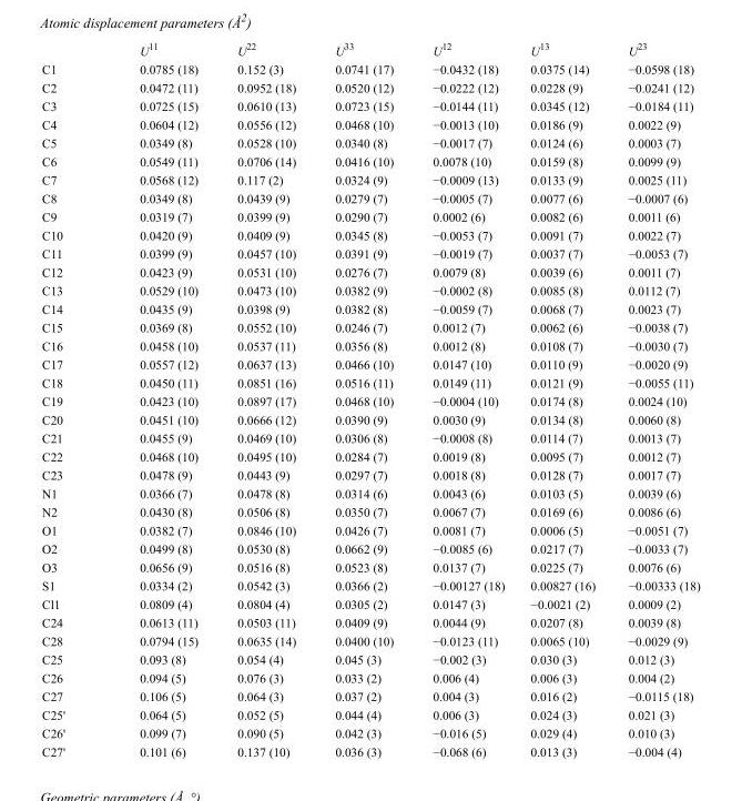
<table><thead><tr><td></td><td>U<sup>11</sup></td><td>U<sup>22</sup></td><td>U<sup>33</sup></td><td>U<sup>12</sup></td><td>U<sup>13</sup></td><td>U<sup>23</sup></td></tr></thead><tbody><tr><td>C1</td><td>0.0785 (18)</td><td>0.152 (3)</td><td>0.0741 (17)</td><td>−0.0432 (18)</td><td>0.0375 (14)</td><td>−0.0598 (18)</td></tr><tr><td>C2</td><td>0.0472 (11)</td><td>0.0952 (18)</td><td>0.0520 (12)</td><td>−0.0222 (12)</td><td>0.0228 (9)</td><td>−0.0241 (12)</td></tr><tr><td>C3</td><td>0.0725 (15)</td><td>0.0610 (13)</td><td>0.0723 (15)</td><td>−0.0144 (11)</td><td>0.0345 (12)</td><td>−0.0184 (11)</td></tr><tr><td>C4</td><td>0.0604 (12)</td><td>0.0556 (12)</td><td>0.0468 (10)</td><td>−0.0013 (10)</td><td>0.0186 (9)</td><td>0.0022 (9)</td></tr><tr><td>C5</td><td>0.0349 (8)</td><td>0.0528 (10)</td><td>0.0340 (8)</td><td>−0.0017 (7)</td><td>0.0124 (6)</td><td>0.0003 (7)</td></tr><tr><td>C6</td><td>0.0549 (11)</td><td>0.0706 (14)</td><td>0.0416 (10)</td><td>0.0078 (10)</td><td>0.0159 (8)</td><td>0.0099 (9)</td></tr><tr><td>C7</td><td>0.0568 (12)</td><td>0.117 (2)</td><td>0.0324 (9)</td><td>−0.0009 (13)</td><td>0.0133 (9)</td><td>0.0025 (11)</td></tr><tr><td>C8</td><td>0.0349 (8)</td><td>0.0439 (9)</td><td>0.0279 (7)</td><td>−0.0005 (7)</td><td>0.0077 (6)</td><td>−0.0007 (6)</td></tr><tr><td>C9</td><td>0.0319 (7)</td><td>0.0399 (9)</td><td>0.0290 (7)</td><td>0.0002 (6)</td><td>0.0082 (6)</td><td>0.0011 (6)</td></tr><tr><td>C10</td><td>0.0420 (9)</td><td>0.0409 (9)</td><td>0.0345 (8)</td><td>−0.0053 (7)</td><td>0.0091 (7)</td><td>0.0022 (7)</td></tr><tr><td>C11</td><td>0.0399 (9)</td><td>0.0457 (10)</td><td>0.0391 (9)</td><td>−0.0019 (7)</td><td>0.0037 (7)</td><td>−0.0053 (7)</td></tr><tr><td>C12</td><td>0.0423 (9)</td><td>0.0531 (10)</td><td>0.0276 (7)</td><td>0.0079 (8)</td><td>0.0039 (6)</td><td>0.0011 (7)</td></tr><tr><td>C13</td><td>0.0529 (10)</td><td>0.0473 (10)</td><td>0.0382 (9)</td><td>−0.0002 (8)</td><td>0.0085 (8)</td><td>0.0112 (7)</td></tr><tr><td>C14</td><td>0.0435 (9)</td><td>0.0398 (9)</td><td>0.0382 (8)</td><td>−0.0059 (7)</td><td>0.0068 (7)</td><td>0.0023 (7)</td></tr><tr><td>C15</td><td>0.0369 (8)</td><td>0.0552 (10)</td><td>0.0246 (7)</td><td>0.0012 (7)</td><td>0.0062 (6)</td><td>−0.0038 (7)</td></tr><tr><td>C16</td><td>0.0458 (10)</td><td>0.0537 (11)</td><td>0.0356 (8)</td><td>0.0012 (8)</td><td>0.0108 (7)</td><td>−0.0030 (7)</td></tr><tr><td>C17</td><td>0.0557 (12)</td><td>0.0637 (13)</td><td>0.0466 (10)</td><td>0.0147 (10)</td><td>0.0110 (9)</td><td>−0.0020 (9)</td></tr><tr><td>C18</td><td>0.0450 (11)</td><td>0.0851 (16)</td><td>0.0516 (11)</td><td>0.0149 (11)</td><td>0.0121 (9)</td><td>−0.0055 (11)</td></tr><tr><td>C19</td><td>0.0423 (10)</td><td>0.0897 (17)</td><td>0.0468 (10)</td><td>−0.0004 (10)</td><td>0.0174 (8)</td><td>0.0024 (10)</td></tr><tr><td>C20</td><td>0.0451 (10)</td><td>0.0666 (12)</td><td>0.0390 (9)</td><td>0.0030 (9)</td><td>0.0134 (8)</td><td>0.0060 (8)</td></tr><tr><td>C21</td><td>0.0455 (9)</td><td>0.0469 (10)</td><td>0.0306 (8)</td><td>−0.0008 (8)</td><td>0.0114 (7)</td><td>0.0013 (7)</td></tr><tr><td>C22</td><td>0.0468 (10)</td><td>0.0495 (10)</td><td>0.0284 (7)</td><td>0.0019 (8)</td><td>0.0095 (7)</td><td>0.0012 (7)</td></tr><tr><td>C23</td><td>0.0478 (9)</td><td>0.0443 (9)</td><td>0.0297 (7)</td><td>0.0018 (8)</td><td>0.0128 (7)</td><td>0.0017 (7)</td></tr><tr><td>N1</td><td>0.0366 (7)</td><td>0.0478 (8)</td><td>0.0314 (6)</td><td>0.0043 (6)</td><td>0.0103 (5)</td><td>0.0039 (6)</td></tr><tr><td>N2</td><td>0.0430 (8)</td><td>0.0506 (8)</td><td>0.0350 (7)</td><td>0.0067 (7)</td><td>0.0169 (6)</td><td>0.0086 (6)</td></tr><tr><td>O1</td><td>0.0382 (7)</td><td>0.0846 (10)</td><td>0.0426 (7)</td><td>0.0081 (7)</td><td>0.0006 (5)</td><td>−0.0051 (7)</td></tr><tr><td>O2</td><td>0.0499 (8)</td><td>0.0530 (8)</td><td>0.0662 (9)</td><td>−0.0085 (6)</td><td>0.0217 (7)</td><td>−0.0033 (7)</td></tr><tr><td>O3</td><td>0.0656 (9)</td><td>0.0516 (8)</td><td>0.0523 (8)</td><td>0.0137 (7)</td><td>0.0225 (7)</td><td>0.0076 (6)</td></tr><tr><td>S1</td><td>0.0334 (2)</td><td>0.0542 (3)</td><td>0.0366 (2)</td><td>−0.00127 (18)</td><td>0.00827 (16)</td><td>−0.00333 (18)</td></tr><tr><td>Cl1</td><td>0.0809 (4)</td><td>0.0804 (4)</td><td>0.0305 (2)</td><td>0.0147 (3)</td><td>−0.0021 (2)</td><td>0.0009 (2)</td></tr><tr><td>C24</td><td>0.0613 (11)</td><td>0.0503 (11)</td><td>0.0409 (9)</td><td>0.0044 (9)</td><td>0.0207 (8)</td><td>0.0039 (8)</td></tr><tr><td>C28</td><td>0.0794 (15)</td><td>0.0635 (14)</td><td>0.0400 (10)</td><td>−0.0123 (11)</td><td>0.0065 (10)</td><td>−0.0029 (9)</td></tr><tr><td>C25</td><td>0.093 (8)</td><td>0.054 (4)</td><td>0.045 (3)</td><td>−0.002 (3)</td><td>0.030 (3)</td><td>0.012 (3)</td></tr><tr><td>C26</td><td>0.094 (5)</td><td>0.076 (3)</td><td>0.033 (2)</td><td>0.006 (4)</td><td>0.006 (3)</td><td>0.004 (2)</td></tr><tr><td>C27</td><td>0.106 (5)</td><td>0.064 (3)</td><td>0.037 (2)</td><td>0.004 (3)</td><td>0.016 (2)</td><td>−0.0115 (18)</td></tr><tr><td>C25&#x27;</td><td>0.064 (5)</td><td>0.052 (5)</td><td>0.044 (4)</td><td>0.006 (3)</td><td>0.024 (3)</td><td>0.021 (3)</td></tr><tr><td>C26&#x27;</td><td>0.099 (7)</td><td>0.090 (5)</td><td>0.042 (3)</td><td>−0.016 (5)</td><td>0.029 (4)</td><td>0.010 (3)</td></tr><tr><td>C27&#x27;</td><td>0.101 (6)</td><td>0.137 (10)</td><td>0.036 (3)</td><td>−0.068 (6)</td><td>0.013 (3)</td><td>−0.004 (4)</td></tr></tbody></table>